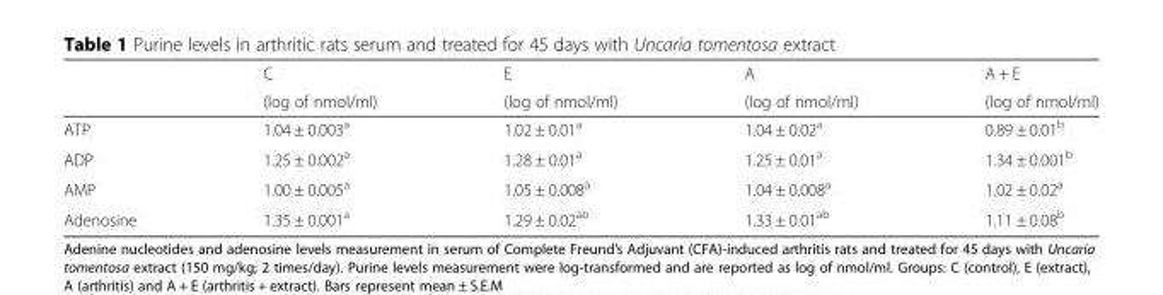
<table><thead><tr><td rowspan="2"></td><td rowspan="2">C (log of nmol/ml)</td><td rowspan="2">E (log of nmol/ml)</td><td rowspan="2">A (log of nmol/ml)</td><td rowspan="2">A + E (log of nmol/ml)</td></tr><tr></tr></thead><tbody><tr><td>ATP</td><td>1.04 ± 0.003<sup>a</sup></td><td>1.02 ± 0.01<sup>a</sup></td><td>1.04 ± 0.02<sup>a</sup></td><td>0.89 ± 0.01<sup>b</sup></td></tr><tr><td>ADP</td><td>1.25 ± 0.002<sup>a</sup></td><td>1.28 ± 0.01<sup>a</sup></td><td>1.25 ± 0.01<sup>a</sup></td><td>1.34 ± 0.001<sup>b</sup></td></tr><tr><td>AMP</td><td>1.00 ± 0.005<sup>a</sup></td><td>1.05 ± 0.008<sup>a</sup></td><td>1.04 ± 0.008<sup>a</sup></td><td>1.02 ± 0.02<sup>a</sup></td></tr><tr><td>Adenosine</td><td>1.35 ± 0.001<sup>a</sup></td><td>1.29 ± 0.02<sup>ab</sup></td><td>1.33 ± 0.01<sup>ab</sup></td><td>1.11 ± 0.08<sup>b</sup></td></tr></tbody></table>